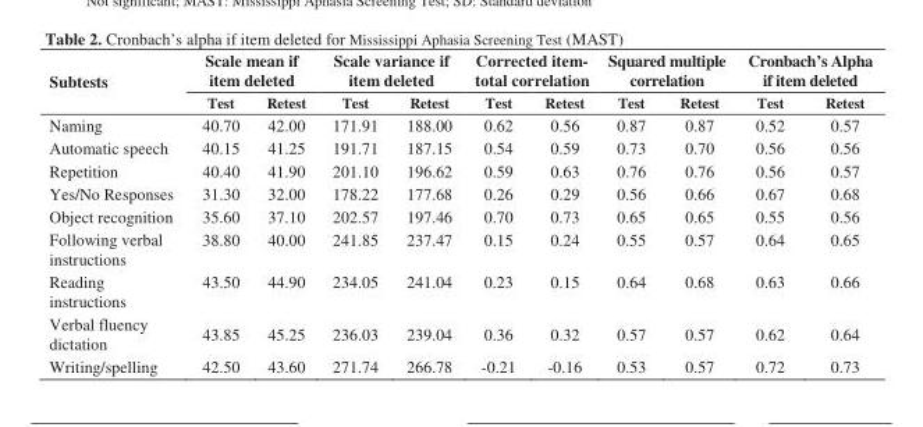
<table><thead><tr><td rowspan="2">Subtests</td><td colspan="2">Scale mean if item deleted</td><td colspan="2">Scale variance if item deleted</td><td colspan="2">Corrected item- total correlation</td><td colspan="2">Squared multiple correlation</td><td colspan="2">Cronbach’s Alpha if item deleted</td></tr><tr><td>Test</td><td>Retest</td><td>Test</td><td>Retest</td><td>Test</td><td>Retest</td><td>Test</td><td>Retest</td><td>Test</td><td>Retest</td></tr></thead><tbody><tr><td>Naming</td><td>40.70</td><td>42.00</td><td>171.91</td><td>188.00</td><td>0.62</td><td>0.56</td><td>0.87</td><td>0.87</td><td>0.52</td><td>0.57</td></tr><tr><td>Automatic speech</td><td>40.15</td><td>41.25</td><td>191.71</td><td>187.15</td><td>0.54</td><td>0.59</td><td>0.73</td><td>0.70</td><td>0.56</td><td>0.56</td></tr><tr><td>Repetition</td><td>40.40</td><td>41.90</td><td>201.10</td><td>196.62</td><td>0.59</td><td>0.63</td><td>0.76</td><td>0.76</td><td>0.56</td><td>0.57</td></tr><tr><td>Yes/No Responses</td><td>31.30</td><td>32.00</td><td>178.22</td><td>177.68</td><td>0.26</td><td>0.29</td><td>0.56</td><td>0.66</td><td>0.67</td><td>0.68</td></tr><tr><td>Object recognition</td><td>35.60</td><td>37.10</td><td>202.57</td><td>197.46</td><td>0.70</td><td>0.73</td><td>0.65</td><td>0.65</td><td>0.55</td><td>0.56</td></tr><tr><td>Following verbal instructions</td><td>38.80</td><td>40.00</td><td>241.85</td><td>237.47</td><td>0.15</td><td>0.24</td><td>0.55</td><td>0.57</td><td>0.64</td><td>0.65</td></tr><tr><td>Reading instructions</td><td>43.50</td><td>44.90</td><td>234.05</td><td>241.04</td><td>0.23</td><td>0.15</td><td>0.64</td><td>0.68</td><td>0.63</td><td>0.66</td></tr><tr><td>Verbal fluency dictation</td><td>43.85</td><td>45.25</td><td>236.03</td><td>239.04</td><td>0.36</td><td>0.32</td><td>0.57</td><td>0.57</td><td>0.62</td><td>0.64</td></tr><tr><td>Writing/spelling</td><td>42.50</td><td>43.60</td><td>271.74</td><td>266.78</td><td>-0.21</td><td>-0.16</td><td>0.53</td><td>0.57</td><td>0.72</td><td>0.73</td></tr></tbody></table>